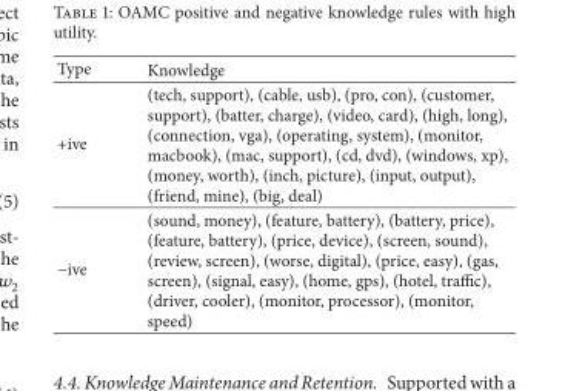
<table><thead><tr><td>Type</td><td>Knowledge</td></tr></thead><tbody><tr><td>+ive</td><td>(tech, support), (cable, usb), (pro, con), (customer, support), (batter, charge), (video, card), (high, long), (connection, vga), (operating, system), (monitor, macbook), (mac, support), (cd, dvd), (windows, xp), (money, worth), (inch, picture), (input, output), (friend, mine), (big, deal)</td></tr><tr><td>−ive</td><td>(sound, money), (feature, battery), (battery, price), (feature, battery), (price, device), (screen, sound), (review, screen), (worse, digital), (price, easy), (gas, screen), (signal, easy), (home, gps), (hotel, traffic), (driver, cooler), (monitor, processor), (monitor, speed)</td></tr></tbody></table>